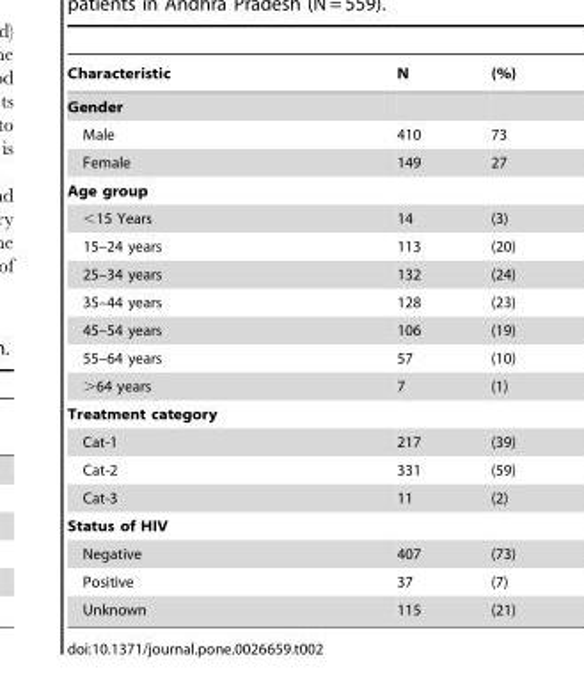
<table><thead><tr><td>Characteristic</td><td>N</td><td>(%)</td></tr></thead><tbody><tr><td colspan="3">Gender</td></tr><tr><td>Male</td><td>410</td><td>73</td></tr><tr><td>Female</td><td>149</td><td>27</td></tr><tr><td colspan="3">Age group</td></tr><tr><td>&lt;15 Years</td><td>14</td><td>(3)</td></tr><tr><td>15–24 years</td><td>113</td><td>(20)</td></tr><tr><td>25–34 years</td><td>132</td><td>(24)</td></tr><tr><td>35–44 years</td><td>128</td><td>(23)</td></tr><tr><td>45–54 years</td><td>106</td><td>(19)</td></tr><tr><td>55–64 years</td><td>57</td><td>(10)</td></tr><tr><td>&gt;64 years</td><td>7</td><td>(1)</td></tr><tr><td colspan="3">Treatment category</td></tr><tr><td>Cat-1</td><td>217</td><td>(39)</td></tr><tr><td>Cat-2</td><td>331</td><td>(59)</td></tr><tr><td>Cat-3</td><td>11</td><td>(2)</td></tr><tr><td colspan="3">Status of HIV</td></tr><tr><td>Negative</td><td>407</td><td>(73)</td></tr><tr><td>Positive</td><td>37</td><td>(7)</td></tr><tr><td>Unknown</td><td>115</td><td>(21)</td></tr></tbody></table>